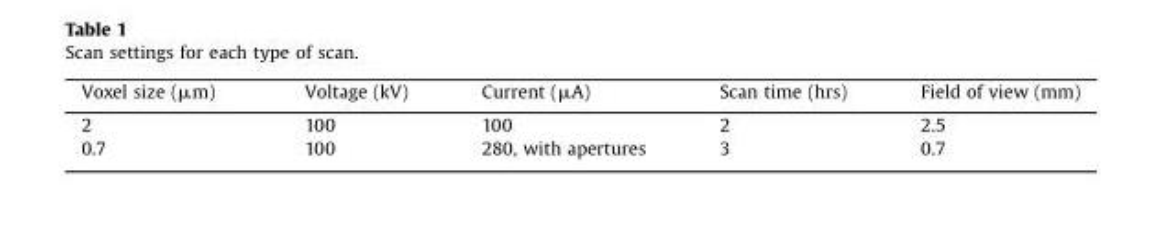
<table><thead><tr><td>Voxel size (μm)</td><td>Voltage (kV)</td><td>Current (μA)</td><td>Scan time (hrs)</td><td>Field of view (mm)</td></tr></thead><tbody><tr><td>2</td><td>100</td><td>100</td><td>2</td><td>2.5</td></tr><tr><td>0.7</td><td>100</td><td>280, with apertures</td><td>3</td><td>0.7</td></tr></tbody></table>